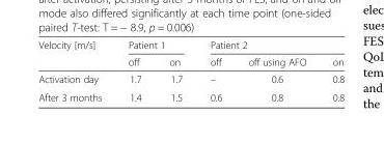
<table><thead><tr><td rowspan="2">Velocity [m/s]</td><td colspan="2">Patient 1</td><td colspan="3">Patient 2</td></tr><tr><td>off</td><td>on</td><td>off</td><td>off using AFO</td><td>on</td></tr></thead><tbody><tr><td>Activation day</td><td>1.7</td><td>1.7</td><td>–</td><td>0.6</td><td>0.8</td></tr><tr><td>After 3 months</td><td>1.4</td><td>1.5</td><td>0.6</td><td>0.8</td><td>0.8</td></tr></tbody></table>